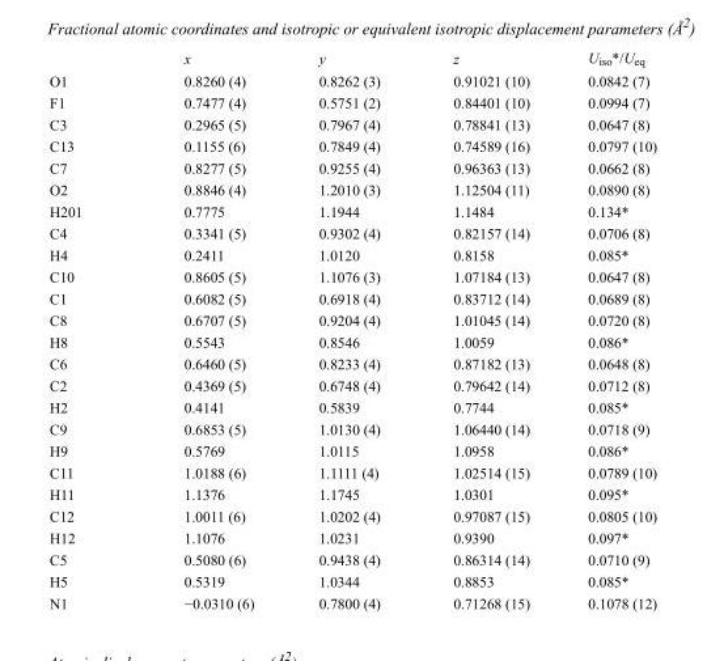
<table><thead><tr><td></td><td>x</td><td>y</td><td>z</td><td>U<sub>iso</sub>*/U<sub>eq</sub></td></tr></thead><tbody><tr><td>O1</td><td>0.8260 (4)</td><td>0.8262 (3)</td><td>0.91021 (10)</td><td>0.0842 (7)</td></tr><tr><td>F1</td><td>0.7477 (4)</td><td>0.5751 (2)</td><td>0.84401 (10)</td><td>0.0994 (7)</td></tr><tr><td>C3</td><td>0.2965 (5)</td><td>0.7967 (4)</td><td>0.78841 (13)</td><td>0.0647 (8)</td></tr><tr><td>C13</td><td>0.1155 (6)</td><td>0.7849 (4)</td><td>0.74589 (16)</td><td>0.0797 (10)</td></tr><tr><td>C7</td><td>0.8277 (5)</td><td>0.9255 (4)</td><td>0.96363 (13)</td><td>0.0662 (8)</td></tr><tr><td>O2</td><td>0.8846 (4)</td><td>1.2010 (3)</td><td>1.12504 (11)</td><td>0.0890 (8)</td></tr><tr><td>H201</td><td>0.7775</td><td>1.1944</td><td>1.1484</td><td>0.134*</td></tr><tr><td>C4</td><td>0.3341 (5)</td><td>0.9302 (4)</td><td>0.82157 (14)</td><td>0.0706 (8)</td></tr><tr><td>H4</td><td>0.2411</td><td>1.0120</td><td>0.8158</td><td>0.085*</td></tr><tr><td>C10</td><td>0.8605 (5)</td><td>1.1076 (3)</td><td>1.07184 (13)</td><td>0.0647 (8)</td></tr><tr><td>C1</td><td>0.6082 (5)</td><td>0.6918 (4)</td><td>0.83712 (14)</td><td>0.0689 (8)</td></tr><tr><td>C8</td><td>0.6707 (5)</td><td>0.9204 (4)</td><td>1.01045 (14)</td><td>0.0720 (8)</td></tr><tr><td>H8</td><td>0.5543</td><td>0.8546</td><td>1.0059</td><td>0.086*</td></tr><tr><td>C6</td><td>0.6460 (5)</td><td>0.8233 (4)</td><td>0.87182 (13)</td><td>0.0648 (8)</td></tr><tr><td>C2</td><td>0.4369 (5)</td><td>0.6748 (4)</td><td>0.79642 (14)</td><td>0.0712 (8)</td></tr><tr><td>H2</td><td>0.4141</td><td>0.5839</td><td>0.7744</td><td>0.085*</td></tr><tr><td>C9</td><td>0.6853 (5)</td><td>1.0130 (4)</td><td>1.06440 (14)</td><td>0.0718 (9)</td></tr><tr><td>H9</td><td>0.5769</td><td>1.0115</td><td>1.0958</td><td>0.086*</td></tr><tr><td>C11</td><td>1.0188 (6)</td><td>1.1111 (4)</td><td>1.02514 (15)</td><td>0.0789 (10)</td></tr><tr><td>H11</td><td>1.1376</td><td>1.1745</td><td>1.0301</td><td>0.095*</td></tr><tr><td>C12</td><td>1.0011 (6)</td><td>1.0202 (4)</td><td>0.97087 (15)</td><td>0.0805 (10)</td></tr><tr><td>H12</td><td>1.1076</td><td>1.0231</td><td>0.9390</td><td>0.097*</td></tr><tr><td>C5</td><td>0.5080 (6)</td><td>0.9438 (4)</td><td>0.86314 (14)</td><td>0.0710 (9)</td></tr><tr><td>H5</td><td>0.5319</td><td>1.0344</td><td>0.8853</td><td>0.085*</td></tr><tr><td>N1</td><td>−0.0310 (6)</td><td>0.7800 (4)</td><td>0.71268 (15)</td><td>0.1078 (12)</td></tr></tbody></table>